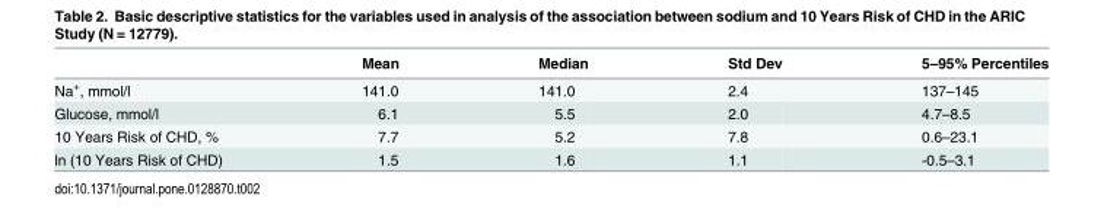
<table><thead><tr><td></td><td>Mean</td><td>Median</td><td>Std Dev</td><td>5–95% Percentiles</td></tr></thead><tbody><tr><td>Na<sup>+</sup>, mmol/l</td><td>141.0</td><td>141.0</td><td>2.4</td><td>137–145</td></tr><tr><td>Glucose, mmol/l</td><td>6.1</td><td>5.5</td><td>2.0</td><td>4.7–8.5</td></tr><tr><td>10 Years Risk of CHD, %</td><td>7.7</td><td>5.2</td><td>7.8</td><td>0.6–23.1</td></tr><tr><td>ln (10 Years Risk of CHD)</td><td>1.5</td><td>1.6</td><td>1.1</td><td>-0.5–3.1</td></tr></tbody></table>